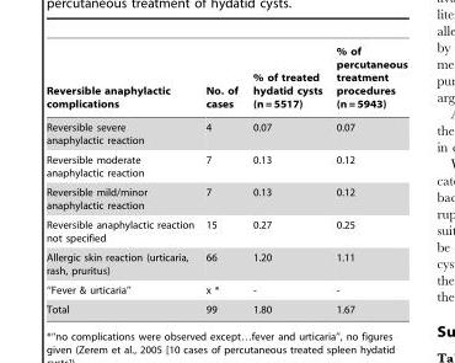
<table><thead><tr><td>Reversible anaphylactic complications</td><td>No. of cases</td><td>% of treated hydatid cysts (n = 5517)</td><td>% of percutaneous treatment procedures (n = 5943)</td></tr></thead><tbody><tr><td>Reversible severe anaphylactic reaction</td><td>4</td><td>0.07</td><td>0.07</td></tr><tr><td>Reversible moderate anaphylactic reaction</td><td>7</td><td>0.13</td><td>0.12</td></tr><tr><td>Reversible mild/minor anaphylactic reaction</td><td>7</td><td>0.13</td><td>0.12</td></tr><tr><td>Reversible anaphylactic reaction not specified</td><td>15</td><td>0.27</td><td>0.25</td></tr><tr><td>Allergic skin reaction (urticaria, rash, pruritus)</td><td>66</td><td>1.20</td><td>1.11</td></tr><tr><td>‘‘Fever &amp; urticaria’’</td><td>x *</td><td>-</td><td>-</td></tr><tr><td>Total</td><td>99</td><td>1.80</td><td>1.67</td></tr></tbody></table>